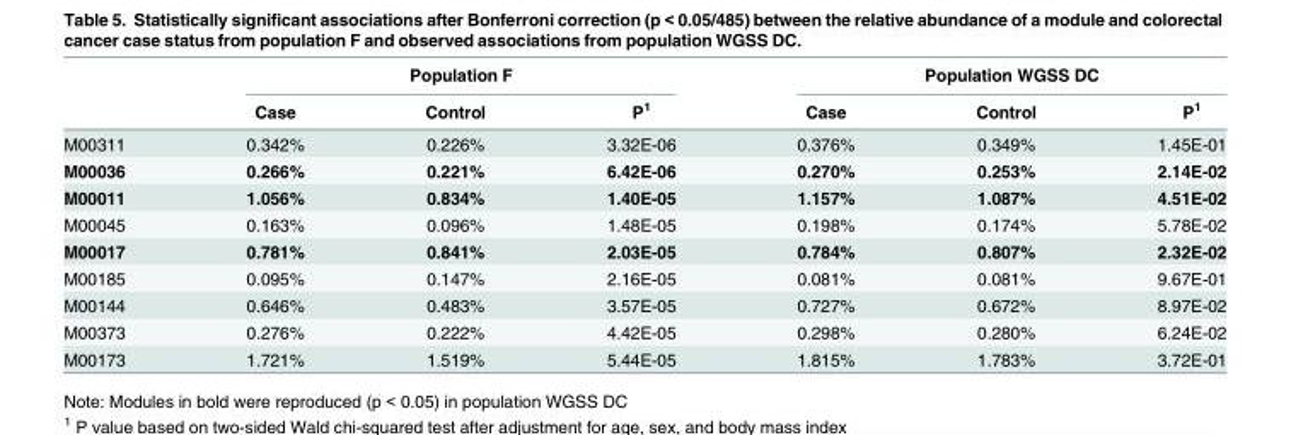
<table><thead><tr><td rowspan="2"></td><td colspan="3">Population F</td><td colspan="3">Population WGSS DC</td></tr><tr><td>Case</td><td>Control</td><td>P<sup>1</sup></td><td>Case</td><td>Control</td><td>P<sup>1</sup></td></tr></thead><tbody><tr><td>M00311</td><td>0.342%</td><td>0.226%</td><td>3.32E-06</td><td>0.376%</td><td>0.349%</td><td>1.45E-01</td></tr><tr><td>M00036</td><td>0.266%</td><td>0.221%</td><td>6.42E-06</td><td>0.270%</td><td>0.253%</td><td>2.14E-02</td></tr><tr><td>M00011</td><td>1.056%</td><td>0.834%</td><td>1.40E-05</td><td>1.157%</td><td>1.087%</td><td>4.51E-02</td></tr><tr><td>M00045</td><td>0.163%</td><td>0.096%</td><td>1.48E-05</td><td>0.198%</td><td>0.174%</td><td>5.78E-02</td></tr><tr><td>M00017</td><td>0.781%</td><td>0.841%</td><td>2.03E-05</td><td>0.784%</td><td>0.807%</td><td>2.32E-02</td></tr><tr><td>M00185</td><td>0.095%</td><td>0.147%</td><td>2.16E-05</td><td>0.081%</td><td>0.081%</td><td>9.67E-01</td></tr><tr><td>M00144</td><td>0.646%</td><td>0.483%</td><td>3.57E-05</td><td>0.727%</td><td>0.672%</td><td>8.97E-02</td></tr><tr><td>M00373</td><td>0.276%</td><td>0.222%</td><td>4.42E-05</td><td>0.298%</td><td>0.280%</td><td>6.24E-02</td></tr><tr><td>M00173</td><td>1.721%</td><td>1.519%</td><td>5.44E-05</td><td>1.815%</td><td>1.783%</td><td>3.72E-01</td></tr></tbody></table>